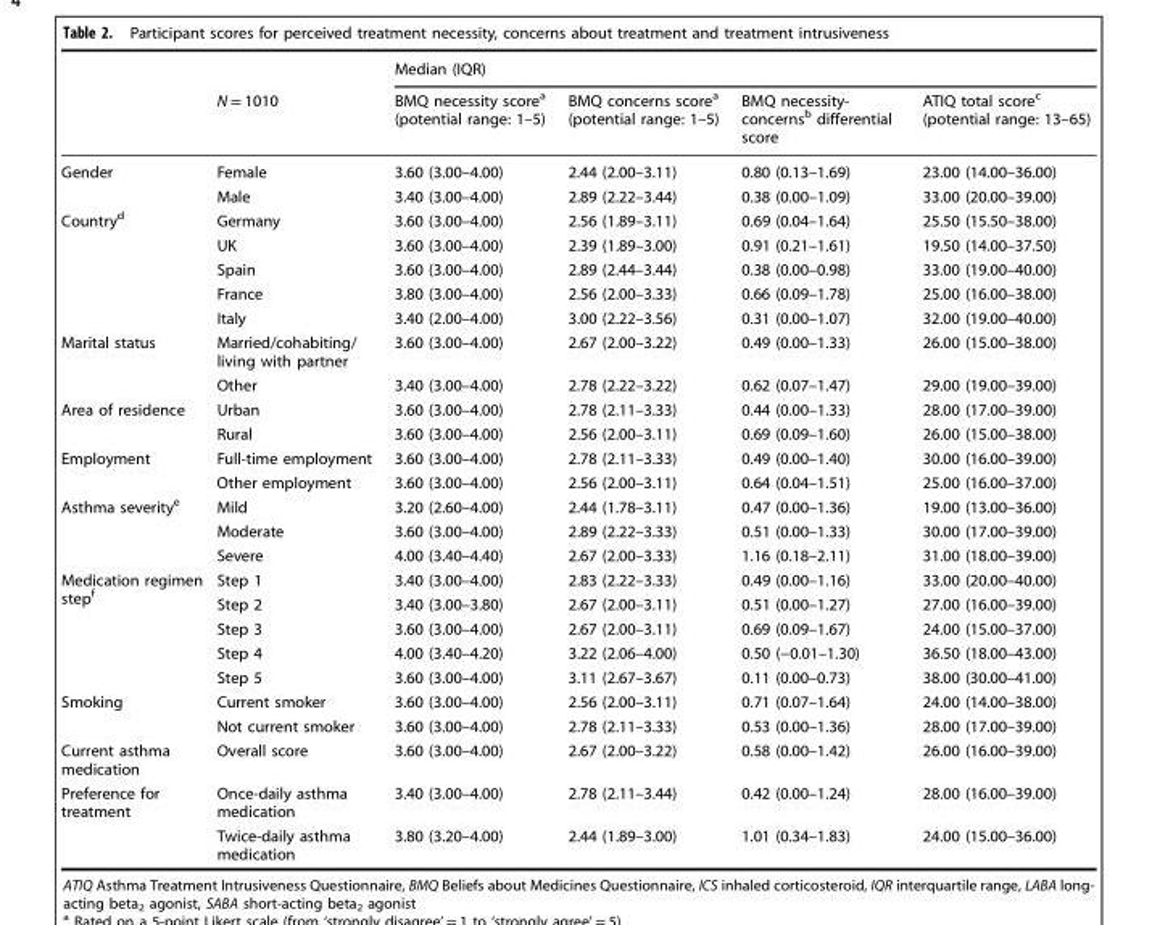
<table><thead><tr><td rowspan="2"></td><td rowspan="2">N = 1010</td><td colspan="4">Median (IQR)</td></tr><tr><td>BMQ necessity score<sup>a</sup> (potential range: 1–5)</td><td>BMQ concerns score<sup>a</sup> (potential range: 1–5)</td><td>BMQ necessity- concerns<sup>b</sup> differential score</td><td>ATIQ total score<sup>c</sup> (potential range: 13–65)</td></tr></thead><tbody><tr><td rowspan="2">Gender</td><td>Female</td><td>3.60 (3.00–4.00)</td><td>2.44 (2.00–3.11)</td><td>0.80 (0.13–1.69)</td><td>23.00 (14.00–36.00)</td></tr><tr><td>Male</td><td>3.40 (3.00–4.00)</td><td>2.89 (2.22–3.44)</td><td>0.38 (0.00–1.09)</td><td>33.00 (20.00–39.00)</td></tr><tr><td rowspan="5">Country<sup>d</sup></td><td>Germany</td><td>3.60 (3.00–4.00)</td><td>2.56 (1.89–3.11)</td><td>0.69 (0.04–1.64)</td><td>25.50 (15.50–38.00)</td></tr><tr><td>UK</td><td>3.60 (3.00–4.00)</td><td>2.39 (1.89–3.00)</td><td>0.91 (0.21–1.61)</td><td>19.50 (14.00–37.50)</td></tr><tr><td>Spain</td><td>3.60 (3.00–4.00)</td><td>2.89 (2.44–3.44)</td><td>0.38 (0.00–0.98)</td><td>33.00 (19.00–40.00)</td></tr><tr><td>France</td><td>3.80 (3.00–4.00)</td><td>2.56 (2.00–3.33)</td><td>0.66 (0.09–1.78)</td><td>25.00 (16.00–38.00)</td></tr><tr><td>Italy</td><td>3.40 (2.00–4.00)</td><td>3.00 (2.22–3.56)</td><td>0.31 (0.00–1.07)</td><td>32.00 (19.00–40.00)</td></tr><tr><td rowspan="2">Marital status</td><td>Married/cohabiting/ living with partner</td><td>3.60 (3.00–4.00)</td><td>2.67 (2.00–3.22)</td><td>0.49 (0.00–1.33)</td><td>26.00 (15.00–38.00)</td></tr><tr><td>Other</td><td>3.40 (3.00–4.00)</td><td>2.78 (2.22–3.22)</td><td>0.62 (0.07–1.47)</td><td>29.00 (19.00–39.00)</td></tr><tr><td rowspan="2">Area of residence</td><td>Urban</td><td>3.60 (3.00–4.00)</td><td>2.78 (2.11–3.33)</td><td>0.44 (0.00–1.33)</td><td>28.00 (17.00–39.00)</td></tr><tr><td>Rural</td><td>3.60 (3.00–4.00)</td><td>2.56 (2.00–3.11)</td><td>0.69 (0.09–1.60)</td><td>26.00 (15.00–38.00)</td></tr><tr><td rowspan="2">Employment</td><td>Full-time employment</td><td>3.60 (3.00–4.00)</td><td>2.78 (2.11–3.33)</td><td>0.49 (0.00–1.40)</td><td>30.00 (16.00–39.00)</td></tr><tr><td>Other employment</td><td>3.60 (3.00–4.00)</td><td>2.56 (2.00–3.11)</td><td>0.64 (0.04–1.51)</td><td>25.00 (16.00–37.00)</td></tr><tr><td rowspan="3">Asthma severity<sup>e</sup></td><td>Mild</td><td>3.20 (2.60–4.00)</td><td>2.44 (1.78–3.11)</td><td>0.47 (0.00–1.36)</td><td>19.00 (13.00–36.00)</td></tr><tr><td>Moderate</td><td>3.60 (3.00–4.00)</td><td>2.89 (2.22–3.33)</td><td>0.51 (0.00–1.33)</td><td>30.00 (17.00–39.00)</td></tr><tr><td>Severe</td><td>4.00 (3.40–4.40)</td><td>2.67 (2.00–3.33)</td><td>1.16 (0.18–2.11)</td><td>31.00 (18.00–39.00)</td></tr><tr><td rowspan="5">Medication regimen step<sup>f</sup></td><td>Step 1</td><td>3.40 (3.00–4.00)</td><td>2.83 (2.22–3.33)</td><td>0.49 (0.00–1.16)</td><td>33.00 (20.00–40.00)</td></tr><tr><td>Step 2</td><td>3.40 (3.00–3.80)</td><td>2.67 (2.00–3.11)</td><td>0.51 (0.00–1.27)</td><td>27.00 (16.00–39.00)</td></tr><tr><td>Step 3</td><td>3.60 (3.00–4.00)</td><td>2.67 (2.00–3.11)</td><td>0.69 (0.09–1.67)</td><td>24.00 (15.00–37.00)</td></tr><tr><td>Step 4</td><td>4.00 (3.40–4.20)</td><td>3.22 (2.06–4.00)</td><td>0.50 (−0.01–1.30)</td><td>36.50 (18.00–43.00)</td></tr><tr><td>Step 5</td><td>3.60 (3.00–4.00)</td><td>3.11 (2.67–3.67)</td><td>0.11 (0.00–0.73)</td><td>38.00 (30.00–41.00)</td></tr><tr><td rowspan="2">Smoking</td><td>Current smoker</td><td>3.60 (3.00–4.00)</td><td>2.56 (2.00–3.11)</td><td>0.71 (0.07–1.64)</td><td>24.00 (14.00–38.00)</td></tr><tr><td>Not current smoker</td><td>3.60 (3.00–4.00)</td><td>2.78 (2.11–3.33)</td><td>0.53 (0.00–1.36)</td><td>28.00 (17.00–39.00)</td></tr><tr><td>Current asthma medication</td><td>Overall score</td><td>3.60 (3.00–4.00)</td><td>2.67 (2.00–3.22)</td><td>0.58 (0.00–1.42)</td><td>26.00 (16.00–39.00)</td></tr><tr><td rowspan="2">Preference for treatment</td><td>Once-daily asthma medication</td><td>3.40 (3.00–4.00)</td><td>2.78 (2.11–3.44)</td><td>0.42 (0.00–1.24)</td><td>28.00 (16.00–39.00)</td></tr><tr><td>Twice-daily asthma medication</td><td>3.80 (3.20–4.00)</td><td>2.44 (1.89–3.00)</td><td>1.01 (0.34–1.83)</td><td>24.00 (15.00–36.00)</td></tr></tbody></table>